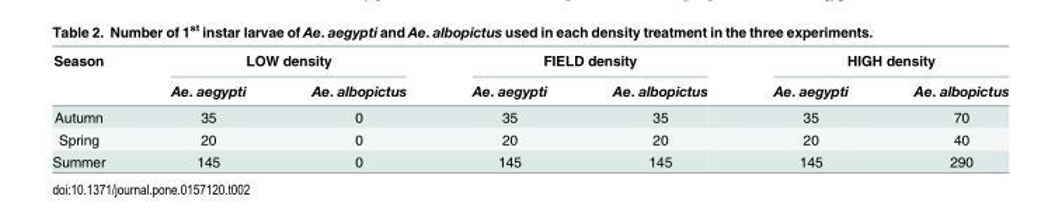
<table><thead><tr><td rowspan="2">Season</td><td colspan="2">LOW density</td><td colspan="2">FIELD density</td><td colspan="2">HIGH density</td></tr><tr><td>Ae. aegypti</td><td>Ae. albopictus</td><td>Ae. aegypti</td><td>Ae. albopictus</td><td>Ae. aegypti</td><td>Ae. albopictus</td></tr></thead><tbody><tr><td>Autumn</td><td>35</td><td>0</td><td>35</td><td>35</td><td>35</td><td>70</td></tr><tr><td>Spring</td><td>20</td><td>0</td><td>20</td><td>20</td><td>20</td><td>40</td></tr><tr><td>Summer</td><td>145</td><td>0</td><td>145</td><td>145</td><td>145</td><td>290</td></tr></tbody></table>